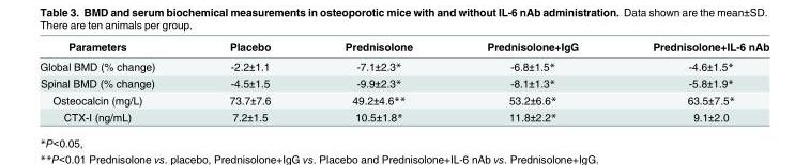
<table><thead><tr><td>Parameters</td><td>Placebo</td><td>Prednisolone</td><td>Prednisolone+IgG</td><td>Prednisolone+IL-6 nAb</td></tr></thead><tbody><tr><td>Global BMD (% change)</td><td>-2.2±1.1</td><td>-7.1±2.3*</td><td>-6.8±1.5*</td><td>-4.6±1.5*</td></tr><tr><td>Spinal BMD (% change)</td><td>-4.5±1.5</td><td>-9.9±2.3*</td><td>-8.1±1.3*</td><td>-5.8±1.9*</td></tr><tr><td>Osteocalcin (mg/L)</td><td>73.7±7.6</td><td>49.2±4.6**</td><td>53.2±6.6*</td><td>63.5±7.5*</td></tr><tr><td>CTX-I (ng/mL)</td><td>7.2±1.5</td><td>10.5±1.8*</td><td>11.8±2.2*</td><td>9.1±2.0</td></tr></tbody></table>